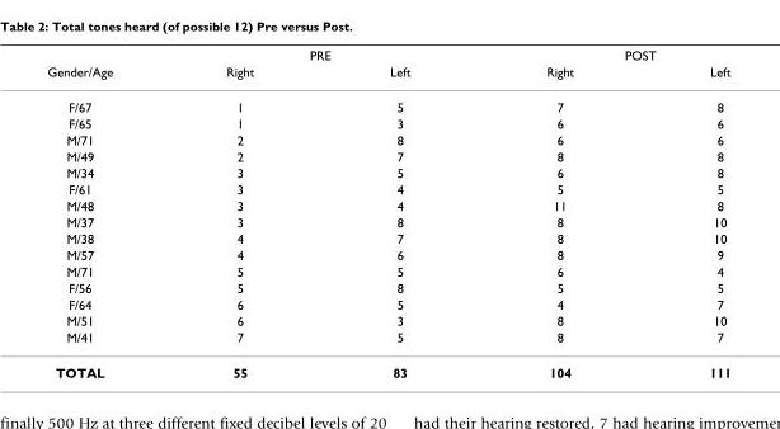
<table><thead><tr><td rowspan="2">Gender/Age</td><td colspan="2">PRE</td><td colspan="2">POST</td></tr><tr><td>Right</td><td>Left</td><td>Right</td><td>Left</td></tr></thead><tbody><tr><td>F/67</td><td>1</td><td>5</td><td>7</td><td>8</td></tr><tr><td>F/65</td><td>1</td><td>3</td><td>6</td><td>6</td></tr><tr><td>M/71</td><td>2</td><td>8</td><td>6</td><td>6</td></tr><tr><td>M/49</td><td>2</td><td>7</td><td>8</td><td>8</td></tr><tr><td>M/34</td><td>3</td><td>5</td><td>6</td><td>8</td></tr><tr><td>F/61</td><td>3</td><td>4</td><td>5</td><td>5</td></tr><tr><td>M/48</td><td>3</td><td>4</td><td>11</td><td>8</td></tr><tr><td>M/37</td><td>3</td><td>8</td><td>8</td><td>10</td></tr><tr><td>M/38</td><td>4</td><td>7</td><td>8</td><td>10</td></tr><tr><td>M/57</td><td>4</td><td>6</td><td>8</td><td>9</td></tr><tr><td>M/71</td><td>5</td><td>5</td><td>6</td><td>4</td></tr><tr><td>F/56</td><td>5</td><td>8</td><td>5</td><td>5</td></tr><tr><td>F/64</td><td>6</td><td>5</td><td>4</td><td>7</td></tr><tr><td>M/51</td><td>6</td><td>3</td><td>8</td><td>10</td></tr><tr><td>M/41</td><td>7</td><td>5</td><td>8</td><td>7</td></tr><tr><td>TOTAL</td><td>55</td><td>83</td><td>104</td><td>111</td></tr></tbody></table>